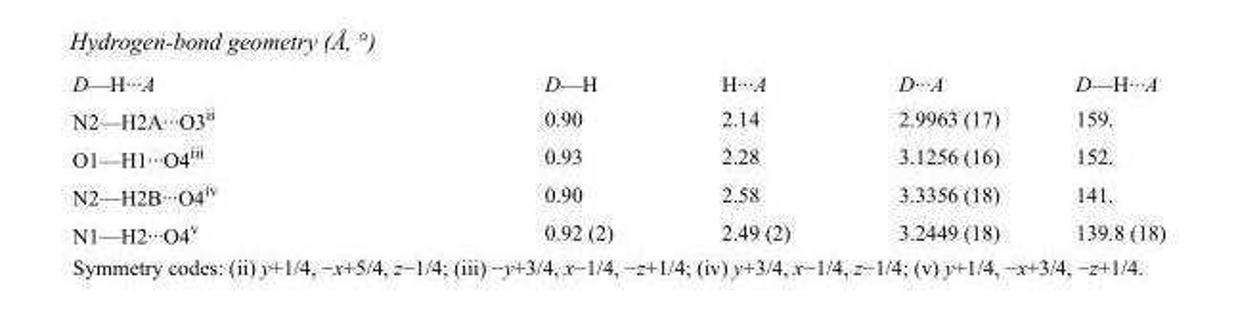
<table><tbody><tr><td>D—H···A</td><td>D—H</td><td>H···A</td><td>D···A</td><td>D—H···A</td></tr><tr><td>N2—H2A···O3<sup>ii</sup></td><td>0.90</td><td>2.14</td><td>2.9963 (17)</td><td>159.</td></tr><tr><td>O1—H1···O4<sup>iii</sup></td><td>0.93</td><td>2.28</td><td>3.1256 (16)</td><td>152.</td></tr><tr><td>N2—H2B···O4<sup>iv</sup></td><td>0.90</td><td>2.58</td><td>3.3356 (18)</td><td>141.</td></tr><tr><td>N1—H2···O4<sup>v</sup></td><td>0.92 (2)</td><td>2.49 (2)</td><td>3.2449 (18)</td><td>139.8 (18)</td></tr></tbody></table>